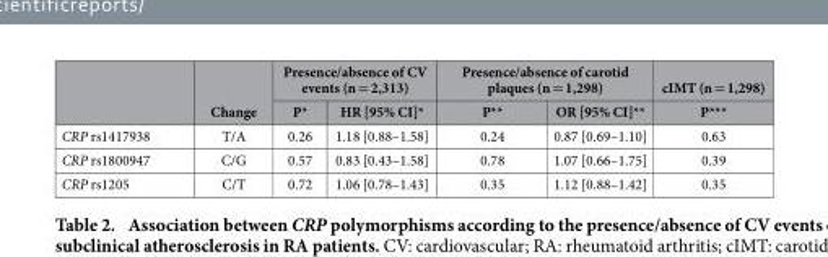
<table><thead><tr><td rowspan="2"></td><td rowspan="2">Change</td><td colspan="2">Presence/absence of CV events (n = 2,313)</td><td colspan="2">Presence/absence of carotid plaques (n = 1,298)</td><td rowspan="2">cIMT (n = 1,298) P***</td></tr><tr><td>P*</td><td>HR [95% CI]*</td><td>P**</td><td>OR [95% CI]**</td></tr></thead><tbody><tr><td>CRP rs1417938</td><td>T/A</td><td>0.26</td><td>1.18 [0.88–1.58]</td><td>0.24</td><td>0.87 [0.69–1.10]</td><td>0.63</td></tr><tr><td>CRP rs1800947</td><td>C/G</td><td>0.57</td><td>0.83 [0.43–1.58]</td><td>0.78</td><td>1.07 [0.66–1.75]</td><td>0.39</td></tr><tr><td>CRP rs1205</td><td>C/T</td><td>0.72</td><td>1.06 [0.78–1.43]</td><td>0.35</td><td>1.12 [0.88–1.42]</td><td>0.35</td></tr></tbody></table>